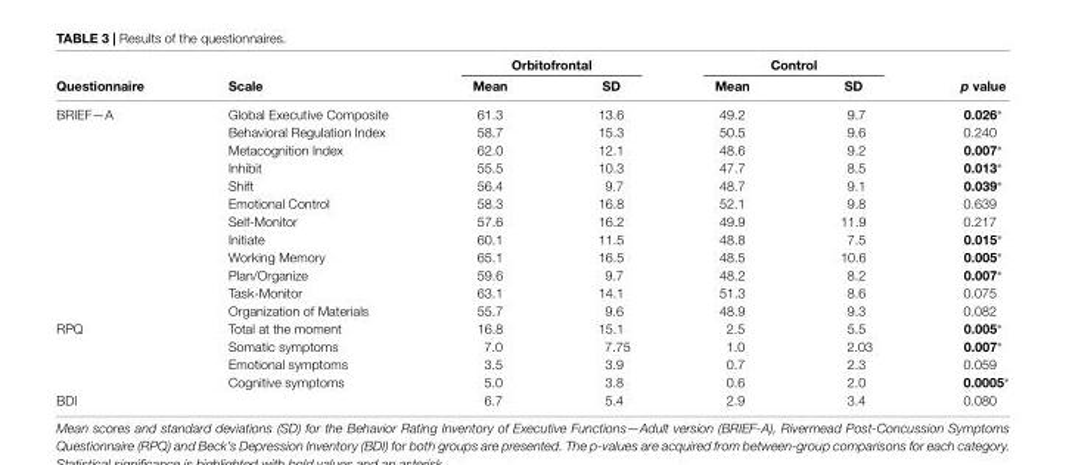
<table><thead><tr><td rowspan="2">Questionnaire</td><td rowspan="2">Scale</td><td colspan="2">Orbitofrontal</td><td colspan="2">Control</td><td rowspan="2">p value</td></tr><tr><td>Mean</td><td>SD</td><td>Mean</td><td>SD</td></tr></thead><tbody><tr><td rowspan="12">BRIEF—A</td><td>Global Executive Composite</td><td>61.3</td><td>13.6</td><td>49.2</td><td>9.7</td><td>0.026∗</td></tr><tr><td>Behavioral Regulation Index</td><td>58.7</td><td>15.3</td><td>50.5</td><td>9.6</td><td>0.240</td></tr><tr><td>Metacognition Index</td><td>62.0</td><td>12.1</td><td>48.6</td><td>9.2</td><td>0.007∗</td></tr><tr><td>Inhibit</td><td>55.5</td><td>10.3</td><td>47.7</td><td>8.5</td><td>0.013∗</td></tr><tr><td>Shift</td><td>56.4</td><td>9.7</td><td>48.7</td><td>9.1</td><td>0.039∗</td></tr><tr><td>Emotional Control</td><td>58.3</td><td>16.8</td><td>52.1</td><td>9.8</td><td>0.639</td></tr><tr><td>Self-Monitor</td><td>57.6</td><td>16.2</td><td>49.9</td><td>11.9</td><td>0.217</td></tr><tr><td>Initiate</td><td>60.1</td><td>11.5</td><td>48.8</td><td>7.5</td><td>0.015∗</td></tr><tr><td>Working Memory</td><td>65.1</td><td>16.5</td><td>48.5</td><td>10.6</td><td>0.005∗</td></tr><tr><td>Plan/Organize</td><td>59.6</td><td>9.7</td><td>48.2</td><td>8.2</td><td>0.007∗</td></tr><tr><td>Task-Monitor</td><td>63.1</td><td>14.1</td><td>51.3</td><td>8.6</td><td>0.075</td></tr><tr><td>Organization of Materials</td><td>55.7</td><td>9.6</td><td>48.9</td><td>9.3</td><td>0.082</td></tr><tr><td rowspan="4">RPQ</td><td>Total at the moment</td><td>16.8</td><td>15.1</td><td>2.5</td><td>5.5</td><td>0.005∗</td></tr><tr><td>Somatic symptoms</td><td>7.0</td><td>7.75</td><td>1.0</td><td>2.03</td><td>0.007∗</td></tr><tr><td>Emotional symptoms</td><td>3.5</td><td>3.9</td><td>0.7</td><td>2.3</td><td>0.059</td></tr><tr><td>Cognitive symptoms</td><td>5.0</td><td>3.8</td><td>0.6</td><td>2.0</td><td>0.0005∗</td></tr><tr><td>BDI</td><td></td><td>6.7</td><td>5.4</td><td>2.9</td><td>3.4</td><td>0.080</td></tr></tbody></table>